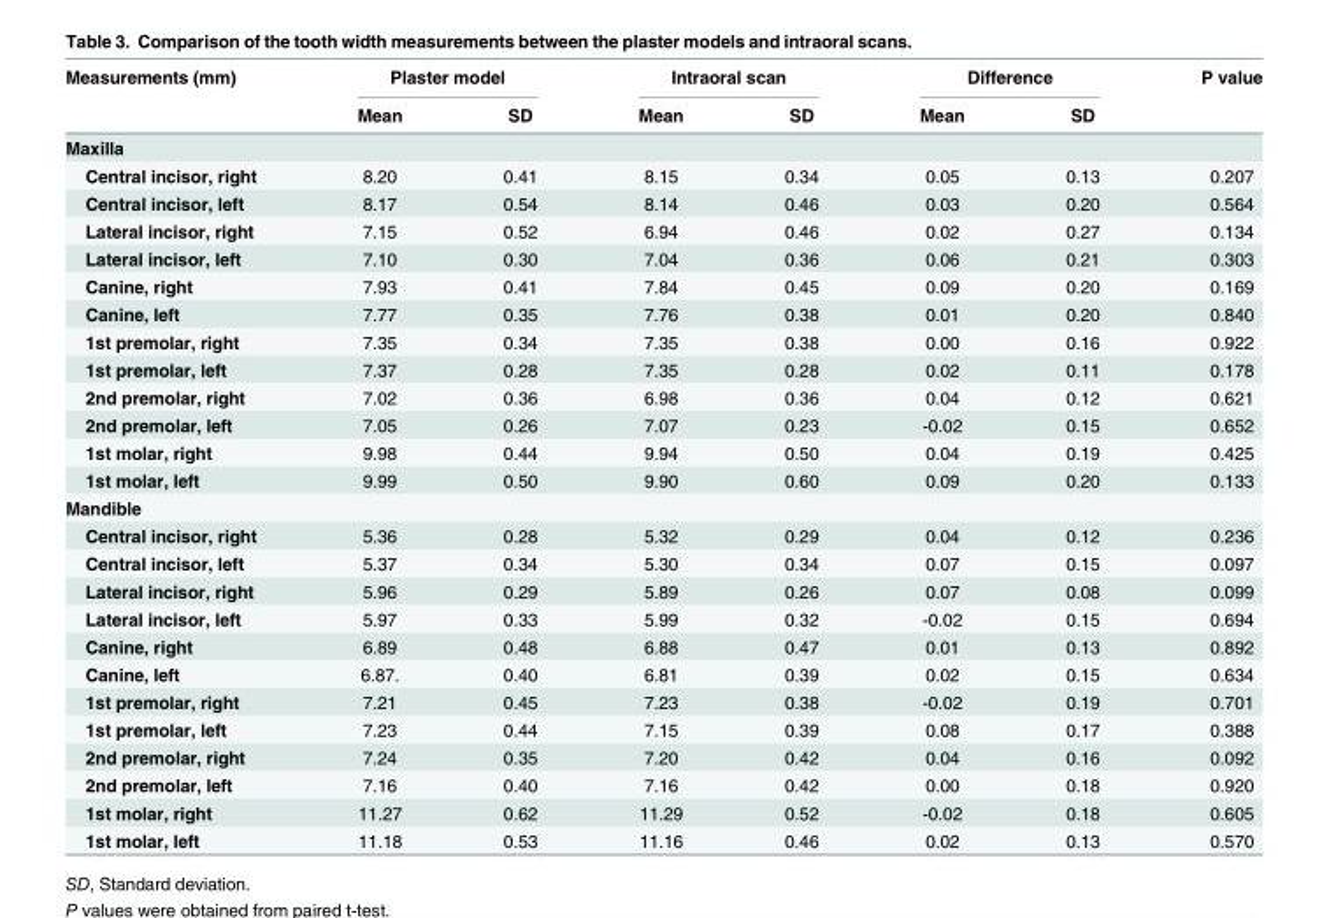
<table><thead><tr><td rowspan="2">Measurements (mm)</td><td colspan="2">Plaster model</td><td colspan="2">Intraoral scan</td><td colspan="2">Difference</td><td rowspan="2">P value</td></tr><tr><td>Mean</td><td>SD</td><td>Mean</td><td>SD</td><td>Mean</td><td>SD</td></tr></thead><tbody><tr><td colspan="8">Maxilla</td></tr><tr><td>Central incisor, right</td><td>8.20</td><td>0.41</td><td>8.15</td><td>0.34</td><td>0.05</td><td>0.13</td><td>0.207</td></tr><tr><td>Central incisor, left</td><td>8.17</td><td>0.54</td><td>8.14</td><td>0.46</td><td>0.03</td><td>0.20</td><td>0.564</td></tr><tr><td>Lateral incisor, right</td><td>7.15</td><td>0.52</td><td>6.94</td><td>0.46</td><td>0.02</td><td>0.27</td><td>0.134</td></tr><tr><td>Lateral incisor, left</td><td>7.10</td><td>0.30</td><td>7.04</td><td>0.36</td><td>0.06</td><td>0.21</td><td>0.303</td></tr><tr><td>Canine, right</td><td>7.93</td><td>0.41</td><td>7.84</td><td>0.45</td><td>0.09</td><td>0.20</td><td>0.169</td></tr><tr><td>Canine, left</td><td>7.77</td><td>0.35</td><td>7.76</td><td>0.38</td><td>0.01</td><td>0.20</td><td>0.840</td></tr><tr><td>1st premolar, right</td><td>7.35</td><td>0.34</td><td>7.35</td><td>0.38</td><td>0.00</td><td>0.16</td><td>0.922</td></tr><tr><td>1st premolar, left</td><td>7.37</td><td>0.28</td><td>7.35</td><td>0.28</td><td>0.02</td><td>0.11</td><td>0.178</td></tr><tr><td>2nd premolar, right</td><td>7.02</td><td>0.36</td><td>6.98</td><td>0.36</td><td>0.04</td><td>0.12</td><td>0.621</td></tr><tr><td>2nd premolar, left</td><td>7.05</td><td>0.26</td><td>7.07</td><td>0.23</td><td>-0.02</td><td>0.15</td><td>0.652</td></tr><tr><td>1st molar, right</td><td>9.98</td><td>0.44</td><td>9.94</td><td>0.50</td><td>0.04</td><td>0.19</td><td>0.425</td></tr><tr><td>1st molar, left</td><td>9.99</td><td>0.50</td><td>9.90</td><td>0.60</td><td>0.09</td><td>0.20</td><td>0.133</td></tr><tr><td colspan="8">Mandible</td></tr><tr><td>Central incisor, right</td><td>5.36</td><td>0.28</td><td>5.32</td><td>0.29</td><td>0.04</td><td>0.12</td><td>0.236</td></tr><tr><td>Central incisor, left</td><td>5.37</td><td>0.34</td><td>5.30</td><td>0.34</td><td>0.07</td><td>0.15</td><td>0.097</td></tr><tr><td>Lateral incisor, right</td><td>5.96</td><td>0.29</td><td>5.89</td><td>0.26</td><td>0.07</td><td>0.08</td><td>0.099</td></tr><tr><td>Lateral incisor, left</td><td>5.97</td><td>0.33</td><td>5.99</td><td>0.32</td><td>-0.02</td><td>0.15</td><td>0.694</td></tr><tr><td>Canine, right</td><td>6.89</td><td>0.48</td><td>6.88</td><td>0.47</td><td>0.01</td><td>0.13</td><td>0.892</td></tr><tr><td>Canine, left</td><td>6.87.</td><td>0.40</td><td>6.81</td><td>0.39</td><td>0.02</td><td>0.15</td><td>0.634</td></tr><tr><td>1st premolar, right</td><td>7.21</td><td>0.45</td><td>7.23</td><td>0.38</td><td>-0.02</td><td>0.19</td><td>0.701</td></tr><tr><td>1st premolar, left</td><td>7.23</td><td>0.44</td><td>7.15</td><td>0.39</td><td>0.08</td><td>0.17</td><td>0.388</td></tr><tr><td>2nd premolar, right</td><td>7.24</td><td>0.35</td><td>7.20</td><td>0.42</td><td>0.04</td><td>0.16</td><td>0.092</td></tr><tr><td>2nd premolar, left</td><td>7.16</td><td>0.40</td><td>7.16</td><td>0.42</td><td>0.00</td><td>0.18</td><td>0.920</td></tr><tr><td>1st molar, right</td><td>11.27</td><td>0.62</td><td>11.29</td><td>0.52</td><td>-0.02</td><td>0.18</td><td>0.605</td></tr><tr><td>1st molar, left</td><td>11.18</td><td>0.53</td><td>11.16</td><td>0.46</td><td>0.02</td><td>0.13</td><td>0.570</td></tr></tbody></table>